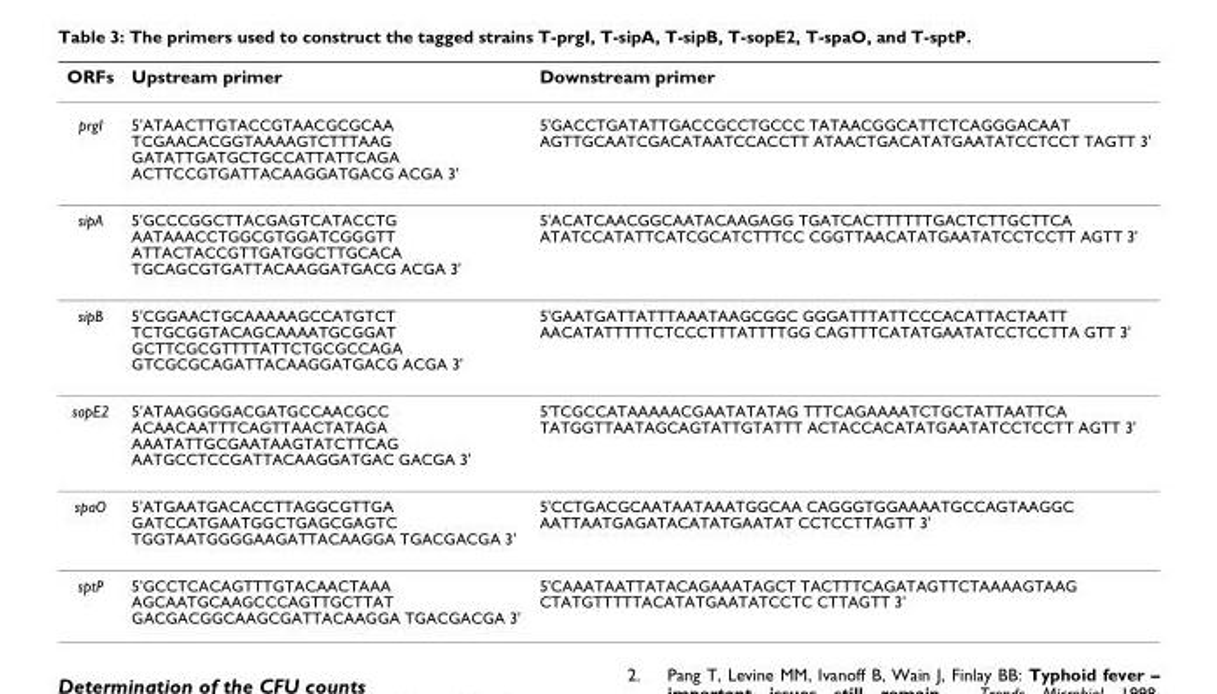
<table><thead><tr><td>ORFs</td><td>Upstream primer</td><td>Downstream primer</td></tr></thead><tbody><tr><td>prgI</td><td>5&#x27;ATAACTTGTACCGTAACGCGCAA TCGAACACGGTAAAAGTCTTTAAG GATATTGATGCTGCCATTATTCAGA ACTTCCGTGATTACAAGGATGACG ACGA 3&#x27;</td><td>5&#x27;GACCTGATATTGACCGCCTGCCC TATAACGGCATTCTCAGGGACAAT AGTTGCAATCGACATAATCCACCTT ATAACTGACATATGAATATCCTCCT TAGTT 3&#x27;</td></tr><tr><td>sipA</td><td>5&#x27;GCCCGGCTTACGAGTCATACCTG AATAAACCTGGCGTGGATCGGGTT ATTACTACCGTTGATGGCTTGCACA TGCAGCGTGATTACAAGGATGACG ACGA 3&#x27;</td><td>5&#x27;ACATCAACGGCAATACAAGAGG TGATCACTTTTTTGACTCTTGCTTCA ATATCCATATTCATCGCATCTTTCC CGGTTAACATATGAATATCCTCCTT AGTT 3&#x27;</td></tr><tr><td>sipB</td><td>5&#x27;CGGAACTGCAAAAAGCCATGTCT TCTGCGGTACAGCAAAATGCGGAT GCTTCGCGTTTTATTCTGCGCCAGA GTCGCGCAGATTACAAGGATGACG ACGA 3&#x27;</td><td>5&#x27;GAATGATTATTTAAATAAGCGGC GGGATTTATTCCCACATTACTAATT AACATATTTTTCTCCCTTTATTTTGG CAGTTTCATATGAATATCCTCCTTA GTT 3&#x27;</td></tr><tr><td>sopE2</td><td>5&#x27;ATAAGGGGACGATGCCAACGCC ACAACAATTTCAGTTAACTATAGA AAATATTGCGAATAAGTATCTTCAG AATGCCTCCGATTACAAGGATGAC GACGA 3&#x27;</td><td>5&#x27;TCGCCATAAAAACGAATATATAG TTTCAGAAAATCTGCTATTAATTCA TATGGTTAATAGCAGTATTGTATTT ACTACCACATATGAATATCCTCCTT AGTT 3&#x27;</td></tr><tr><td>spaO</td><td>5&#x27;ATGAATGACACCTTAGGCGTTGA GATCCATGAATGGCTGAGCGAGTC TGGTAATGGGGAAGATTACAAGGA TGACGACGA 3&#x27;</td><td>5&#x27;CCTGACGCAATAATAAATGGCAA CAGGGTGGAAAATGCCAGTAAGGC AATTAATGAGATACATATGAATAT CCTCCTTAGTT 3&#x27;</td></tr><tr><td>sptP</td><td>5&#x27;GCCTCACAGTTTGTACAACTAAA AGCAATGCAAGCCCAGTTGCTTAT GACGACGGCAAGCGATTACAAGGA TGACGACGA 3&#x27;</td><td>5&#x27;CAAATAATTATACAGAAATAGCT TACTTTCAGATAGTTCTAAAAGTAAG CTATGTTTTTACATATGAATATCCTC CTTAGTT 3&#x27;</td></tr></tbody></table>